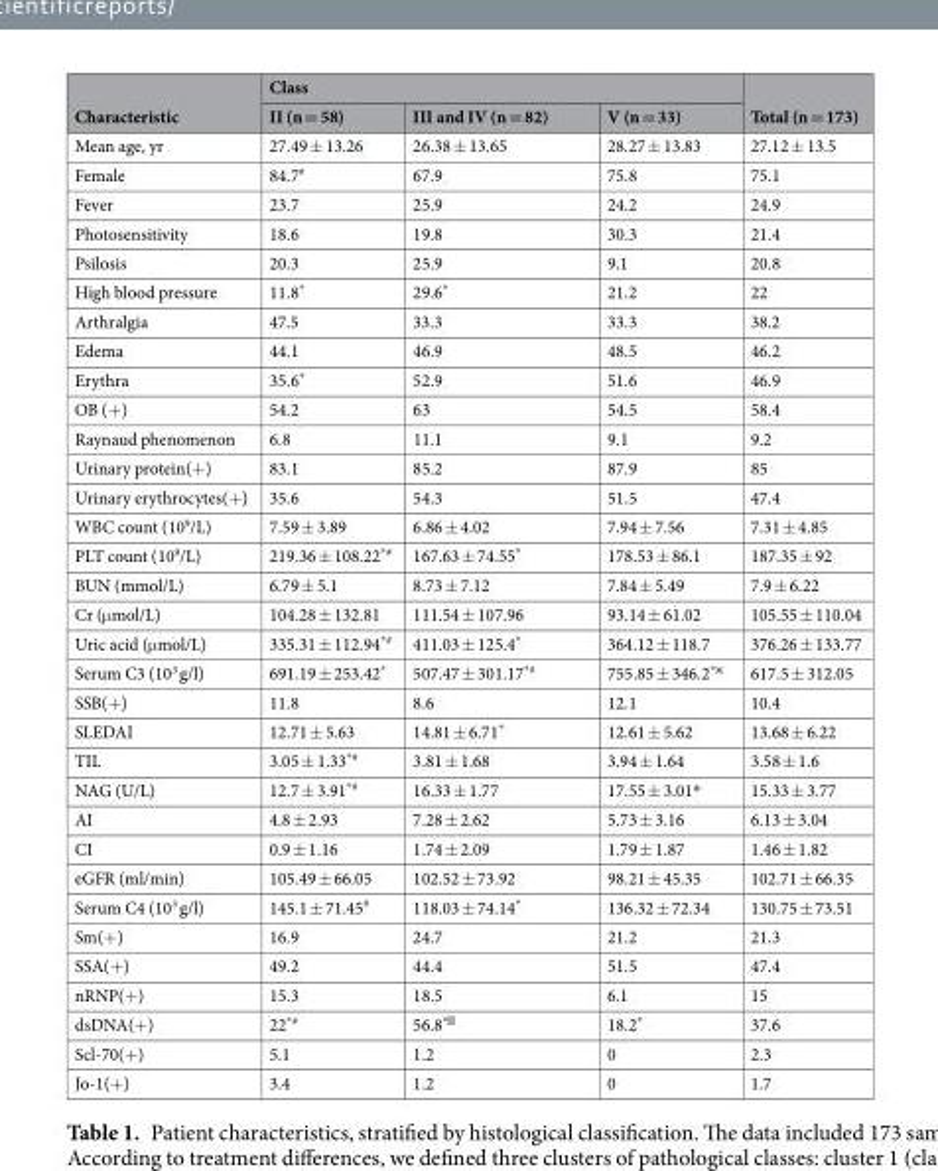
<table><thead><tr><td rowspan="2">Characteristic</td><td colspan="3">Class</td><td rowspan="2">Total (n = 173)</td></tr><tr><td>II (n = 58)</td><td>III and IV (n = 82)</td><td>V (n = 33)</td></tr></thead><tbody><tr><td>Mean age, yr</td><td>27.49 ± 13.26</td><td>26.38 ± 13.65</td><td>28.27 ± 13.83</td><td>27.12 ± 13.5</td></tr><tr><td>Female</td><td>84.7<sup>#</sup></td><td>67.9</td><td>75.8</td><td>75.1</td></tr><tr><td>Fever</td><td>23.7</td><td>25.9</td><td>24.2</td><td>24.9</td></tr><tr><td>Photosensitivity</td><td>18.6</td><td>19.8</td><td>30.3</td><td>21.4</td></tr><tr><td>Psilosis</td><td>20.3</td><td>25.9</td><td>9.1</td><td>20.8</td></tr><tr><td>High blood pressure</td><td>11.8*</td><td>29.6*</td><td>21.2</td><td>22</td></tr><tr><td>Arthralgia</td><td>47.5</td><td>33.3</td><td>33.3</td><td>38.2</td></tr><tr><td>Edema</td><td>44.1</td><td>46.9</td><td>48.5</td><td>46.2</td></tr><tr><td>Erythra</td><td>35.6*</td><td>52.9</td><td>51.6</td><td>46.9</td></tr><tr><td>OB (+)</td><td>54.2</td><td>63</td><td>54.5</td><td>58.4</td></tr><tr><td>Raynaud phenomenon</td><td>6.8</td><td>11.1</td><td>9.1</td><td>9.2</td></tr><tr><td>Urinary protein(+)</td><td>83.1</td><td>85.2</td><td>87.9</td><td>85</td></tr><tr><td>Urinary erythrocytes(+)</td><td>35.6</td><td>54.3</td><td>51.5</td><td>47.4</td></tr><tr><td>WBC count (10<sup>9</sup>/L)</td><td>7.59 ± 3.89</td><td>6.86 ± 4.02</td><td>7.94 ± 7.56</td><td>7.31 ± 4.85</td></tr><tr><td>PLT count (10<sup>9</sup>/L)</td><td>219.36 ± 108.22<sup>*#</sup></td><td>167.63 ± 74.55*</td><td>178.53 ± 86.1</td><td>187.35 ± 92</td></tr><tr><td>BUN (mmol/L)</td><td>6.79 ± 5.1</td><td>8.73 ± 7.12</td><td>7.84 ± 5.49</td><td>7.9 ± 6.22</td></tr><tr><td>Cr (μmol/L)</td><td>104.28 ± 132.81</td><td>111.54 ± 107.96</td><td>93.14 ± 61.02</td><td>105.55 ± 110.04</td></tr><tr><td>Uric acid (μmol/L)</td><td>335.31 ± 112.94<sup>*#</sup></td><td>411.03 ± 125.4*</td><td>364.12 ± 118.7</td><td>376.26 ± 133.77</td></tr><tr><td>Serum C3 (10<sup>3</sup> g/l)</td><td>691.19 ± 253.42*</td><td>507.47 ± 301.17<sup>*#</sup></td><td>755.85 ± 346.2<sup>*※</sup></td><td>617.5 ± 312.05</td></tr><tr><td>SSB(+)</td><td>11.8</td><td>8.6</td><td>12.1</td><td>10.4</td></tr><tr><td>SLEDAI</td><td>12.71 ± 5.63</td><td>14.81 ± 6.71*</td><td>12.61 ± 5.62</td><td>13.68 ± 6.22</td></tr><tr><td>TIL</td><td>3.05 ± 1.33<sup>*#</sup></td><td>3.81 ± 1.68</td><td>3.94 ± 1.64</td><td>3.58 ± 1.6</td></tr><tr><td>NAG (U/L)</td><td>12.7 ± 3.91<sup>*#</sup></td><td>16.33 ± 1.77</td><td>17.55 ± 3.01*</td><td>15.33 ± 3.77</td></tr><tr><td>AI</td><td>4.8 ± 2.93</td><td>7.28 ± 2.62</td><td>5.73 ± 3.16</td><td>6.13 ± 3.04</td></tr><tr><td>CI</td><td>0.9 ± 1.16</td><td>1.74 ± 2.09</td><td>1.79 ± 1.87</td><td>1.46 ± 1.82</td></tr><tr><td>eGFR (ml/min)</td><td>105.49 ± 66.05</td><td>102.52 ± 73.92</td><td>98.21 ± 45.35</td><td>102.71 ± 66.35</td></tr><tr><td>Serum C4 (10<sup>3</sup> g/l)</td><td>145.1 ± 71.45<sup>#</sup></td><td>118.03 ± 74.14*</td><td>136.32 ± 72.34</td><td>130.75 ± 73.51</td></tr><tr><td>Sm(+)</td><td>16.9</td><td>24.7</td><td>21.2</td><td>21.3</td></tr><tr><td>SSA(+)</td><td>49.2</td><td>44.4</td><td>51.5</td><td>47.4</td></tr><tr><td>nRNP(+)</td><td>15.3</td><td>18.5</td><td>6.1</td><td>15</td></tr><tr><td>dsDNA(+)</td><td>22<sup>*#</sup></td><td>56.8<sup>*※</sup></td><td>18.2*</td><td>37.6</td></tr><tr><td>Scl-70(+)</td><td>5.1</td><td>1.2</td><td>0</td><td>2.3</td></tr><tr><td>Jo-1(+)</td><td>3.4</td><td>1.2</td><td>0</td><td>1.7</td></tr></tbody></table>